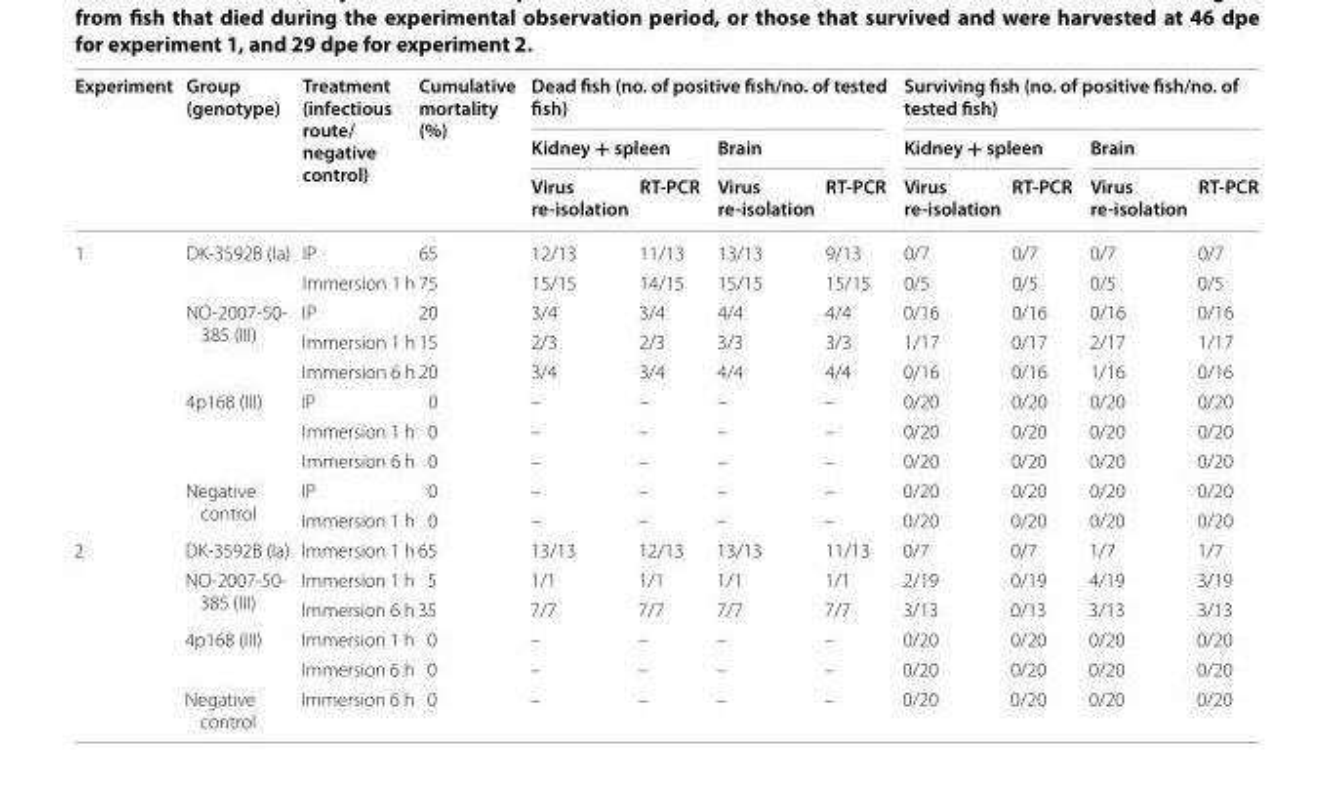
<table><thead><tr><td rowspan="3">Experiment</td><td rowspan="3">Group (genotype)</td><td rowspan="3">Treatment (infectious route/ negative control)</td><td rowspan="3">Cumulative mortality (%)</td><td colspan="4">Dead fish (no. of positive fish/no. of tested fish)</td><td colspan="4">Surviving fish (no. of positive fish/no. of tested fish)</td></tr><tr><td colspan="2">Kidney + spleen</td><td colspan="2">Brain</td><td colspan="2">Kidney + spleen</td><td colspan="2">Brain</td></tr><tr><td>Virus re‑isolation</td><td>RT‑PCR</td><td>Virus re‑isolation</td><td>RT‑PCR</td><td>Virus re‑isolation</td><td>RT‑PCR</td><td>Virus re‑isolation</td><td>RT‑PCR</td></tr></thead><tbody><tr><td rowspan="10">1</td><td rowspan="2">DK‑3592B (Ia)</td><td>IP</td><td>65</td><td>12/13</td><td>11/13</td><td>13/13</td><td>9/13</td><td>0/7</td><td>0/7</td><td>0/7</td><td>0/7</td></tr><tr><td>Immersion 1 h</td><td>75</td><td>15/15</td><td>14/15</td><td>15/15</td><td>15/15</td><td>0/5</td><td>0/5</td><td>0/5</td><td>0/5</td></tr><tr><td rowspan="3">NO‑2007‑50‑ 385 (III)</td><td>IP</td><td>20</td><td>3/4</td><td>3/4</td><td>4/4</td><td>4/4</td><td>0/16</td><td>0/16</td><td>0/16</td><td>0/16</td></tr><tr><td>Immersion 1 h</td><td>15</td><td>2/3</td><td>2/3</td><td>3/3</td><td>3/3</td><td>1/17</td><td>0/17</td><td>2/17</td><td>1/17</td></tr><tr><td>Immersion 6 h</td><td>20</td><td>3/4</td><td>3/4</td><td>4/4</td><td>4/4</td><td>0/16</td><td>0/16</td><td>1/16</td><td>0/16</td></tr><tr><td rowspan="3">4p168 (III)</td><td>IP</td><td>0</td><td>–</td><td>–</td><td>–</td><td>–</td><td>0/20</td><td>0/20</td><td>0/20</td><td>0/20</td></tr><tr><td>Immersion 1 h</td><td>0</td><td>–</td><td>–</td><td>–</td><td>–</td><td>0/20</td><td>0/20</td><td>0/20</td><td>0/20</td></tr><tr><td>Immersion 6 h</td><td>0</td><td>–</td><td>–</td><td>–</td><td>–</td><td>0/20</td><td>0/20</td><td>0/20</td><td>0/20</td></tr><tr><td rowspan="2">Negative control</td><td>IP</td><td>0</td><td>–</td><td>–</td><td>–</td><td>–</td><td>0/20</td><td>0/20</td><td>0/20</td><td>0/20</td></tr><tr><td>Immersion 1 h</td><td>0</td><td>–</td><td>–</td><td>–</td><td>–</td><td>0/20</td><td>0/20</td><td>0/20</td><td>0/20</td></tr><tr><td rowspan="6">2</td><td>DK‑3592B (Ia)</td><td>Immersion 1 h</td><td>65</td><td>13/13</td><td>12/13</td><td>13/13</td><td>11/13</td><td>0/7</td><td>0/7</td><td>1/7</td><td>1/7</td></tr><tr><td rowspan="2">NO‑2007‑50‑ 385 (III)</td><td>Immersion 1 h</td><td>5</td><td>1/1</td><td>1/1</td><td>1/1</td><td>1/1</td><td>2/19</td><td>0/19</td><td>4/19</td><td>3/19</td></tr><tr><td>Immersion 6 h</td><td>35</td><td>7/7</td><td>7/7</td><td>7/7</td><td>7/7</td><td>3/13</td><td>0/13</td><td>3/13</td><td>3/13</td></tr><tr><td rowspan="2">4p168 (III)</td><td>Immersion 1 h</td><td>0</td><td>–</td><td>–</td><td>–</td><td>–</td><td>0/20</td><td>0/20</td><td>0/20</td><td>0/20</td></tr><tr><td>Immersion 6 h</td><td>0</td><td>–</td><td>–</td><td>–</td><td>–</td><td>0/20</td><td>0/20</td><td>0/20</td><td>0/20</td></tr><tr><td>Negative control</td><td>Immersion 6 h</td><td>0</td><td>–</td><td>–</td><td>–</td><td>–</td><td>0/20</td><td>0/20</td><td>0/20</td><td>0/20</td></tr></tbody></table>